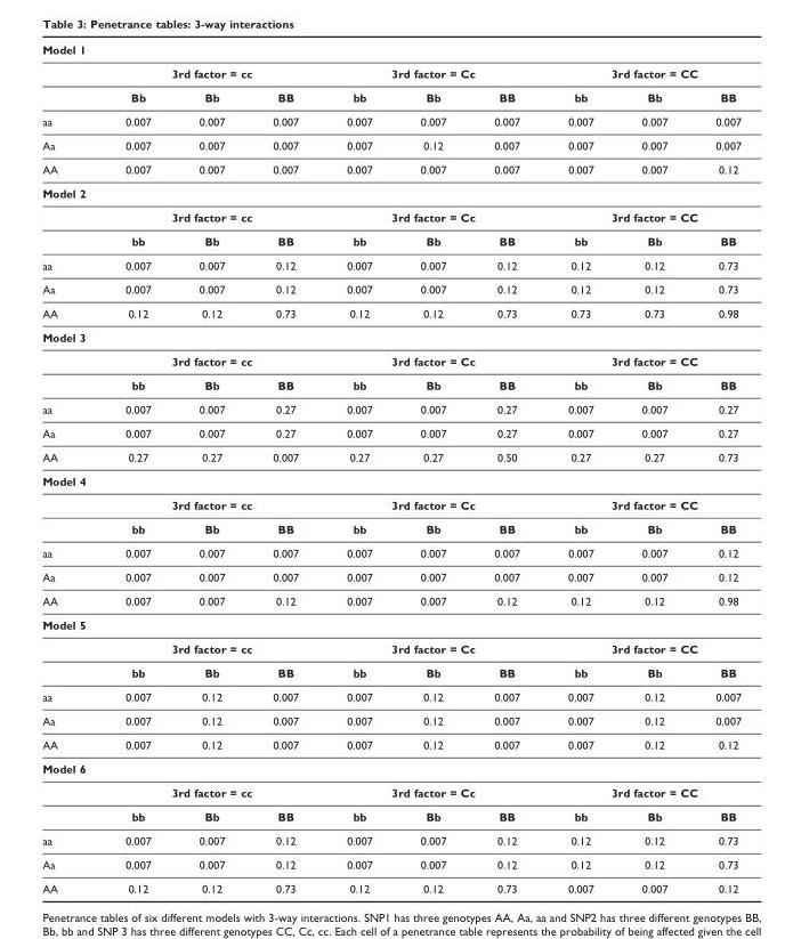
<table><thead><tr><td colspan="10">Model 1</td></tr><tr><td rowspan="2"></td><td colspan="3">3rd factor = cc</td><td colspan="3">3rd factor = Cc</td><td colspan="3">3rd factor = CC</td></tr><tr><td>Bb</td><td>Bb</td><td>BB</td><td>bb</td><td>Bb</td><td>BB</td><td>bb</td><td>Bb</td><td>BB</td></tr></thead><tbody><tr><td>aa</td><td>0.007</td><td>0.007</td><td>0.007</td><td>0.007</td><td>0.007</td><td>0.007</td><td>0.007</td><td>0.007</td><td>0.007</td></tr><tr><td>Aa</td><td>0.007</td><td>0.007</td><td>0.007</td><td>0.007</td><td>0.12</td><td>0.007</td><td>0.007</td><td>0.007</td><td>0.007</td></tr><tr><td>AA</td><td>0.007</td><td>0.007</td><td>0.007</td><td>0.007</td><td>0.007</td><td>0.007</td><td>0.007</td><td>0.007</td><td>0.12</td></tr><tr><td colspan="10">Model 2</td></tr><tr><td></td><td colspan="3">3rd factor = cc</td><td colspan="3">3rd factor = Cc</td><td colspan="3">3rd factor = CC</td></tr><tr><td></td><td>bb</td><td>Bb</td><td>BB</td><td>bb</td><td>Bb</td><td>BB</td><td>bb</td><td>Bb</td><td>BB</td></tr><tr><td>aa</td><td>0.007</td><td>0.007</td><td>0.12</td><td>0.007</td><td>0.007</td><td>0.12</td><td>0.12</td><td>0.12</td><td>0.73</td></tr><tr><td>Aa</td><td>0.007</td><td>0.007</td><td>0.12</td><td>0.007</td><td>0.007</td><td>0.12</td><td>0.12</td><td>0.12</td><td>0.73</td></tr><tr><td>AA</td><td>0.12</td><td>0.12</td><td>0.73</td><td>0.12</td><td>0.12</td><td>0.73</td><td>0.73</td><td>0.73</td><td>0.98</td></tr><tr><td colspan="10">Model 3</td></tr><tr><td></td><td colspan="3">3rd factor = cc</td><td colspan="3">3rd factor = Cc</td><td colspan="3">3rd factor = CC</td></tr><tr><td></td><td>bb</td><td>Bb</td><td>BB</td><td>bb</td><td>Bb</td><td>BB</td><td>bb</td><td>Bb</td><td>BB</td></tr><tr><td>aa</td><td>0.007</td><td>0.007</td><td>0.27</td><td>0.007</td><td>0.007</td><td>0.27</td><td>0.007</td><td>0.007</td><td>0.27</td></tr><tr><td>Aa</td><td>0.007</td><td>0.007</td><td>0.27</td><td>0.007</td><td>0.007</td><td>0.27</td><td>0.007</td><td>0.007</td><td>0.27</td></tr><tr><td>AA</td><td>0.27</td><td>0.27</td><td>0.007</td><td>0.27</td><td>0.27</td><td>0.50</td><td>0.27</td><td>0.27</td><td>0.73</td></tr><tr><td colspan="10">Model 4</td></tr><tr><td></td><td colspan="3">3rd factor = cc</td><td colspan="3">3rd factor = Cc</td><td colspan="3">3rd factor = CC</td></tr><tr><td></td><td>bb</td><td>Bb</td><td>BB</td><td>bb</td><td>Bb</td><td>BB</td><td>bb</td><td>Bb</td><td>BB</td></tr><tr><td>aa</td><td>0.007</td><td>0.007</td><td>0.007</td><td>0.007</td><td>0.007</td><td>0.007</td><td>0.007</td><td>0.007</td><td>0.12</td></tr><tr><td>Aa</td><td>0.007</td><td>0.007</td><td>0.007</td><td>0.007</td><td>0.007</td><td>0.007</td><td>0.007</td><td>0.007</td><td>0.12</td></tr><tr><td>AA</td><td>0.007</td><td>0.007</td><td>0.12</td><td>0.007</td><td>0.007</td><td>0.12</td><td>0.12</td><td>0.12</td><td>0.98</td></tr><tr><td colspan="10">Model 5</td></tr><tr><td></td><td colspan="3">3rd factor = cc</td><td colspan="3">3rd factor = Cc</td><td colspan="3">3rd factor = CC</td></tr><tr><td></td><td>bb</td><td>Bb</td><td>BB</td><td>bb</td><td>Bb</td><td>BB</td><td>bb</td><td>Bb</td><td>BB</td></tr><tr><td>aa</td><td>0.007</td><td>0.12</td><td>0.007</td><td>0.007</td><td>0.12</td><td>0.007</td><td>0.007</td><td>0.12</td><td>0.007</td></tr><tr><td>Aa</td><td>0.007</td><td>0.12</td><td>0.007</td><td>0.007</td><td>0.12</td><td>0.007</td><td>0.007</td><td>0.12</td><td>0.007</td></tr><tr><td>AA</td><td>0.007</td><td>0.12</td><td>0.007</td><td>0.007</td><td>0.12</td><td>0.007</td><td>0.007</td><td>0.12</td><td>0.12</td></tr><tr><td colspan="10">Model 6</td></tr><tr><td></td><td colspan="3">3rd factor = cc</td><td colspan="3">3rd factor = Cc</td><td colspan="3">3rd factor = CC</td></tr><tr><td></td><td>bb</td><td>Bb</td><td>BB</td><td>bb</td><td>Bb</td><td>BB</td><td>bb</td><td>Bb</td><td>BB</td></tr><tr><td>aa</td><td>0.007</td><td>0.007</td><td>0.12</td><td>0.007</td><td>0.007</td><td>0.12</td><td>0.12</td><td>0.12</td><td>0.73</td></tr><tr><td>Aa</td><td>0.007</td><td>0.007</td><td>0.12</td><td>0.007</td><td>0.007</td><td>0.12</td><td>0.12</td><td>0.12</td><td>0.73</td></tr><tr><td>AA</td><td>0.12</td><td>0.12</td><td>0.73</td><td>0.12</td><td>0.12</td><td>0.73</td><td>0.007</td><td>0.007</td><td>0.12</td></tr></tbody></table>